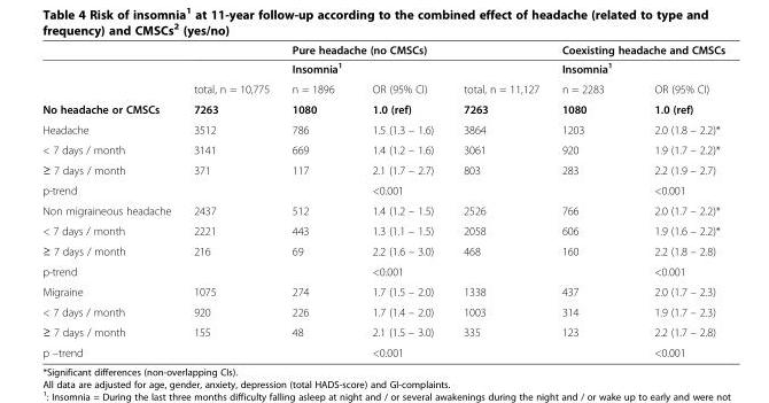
<table><thead><tr><td rowspan="2"></td><td rowspan="2"></td><td colspan="2">Pure headache (no CMSCs)</td><td rowspan="2"></td><td colspan="2">Coexisting headache and CMSCs</td></tr><tr><td>Insomnia<sup>1</sup></td><td></td><td>Insomnia<sup>1</sup></td><td></td></tr></thead><tbody><tr><td></td><td>total, n = 10,775</td><td>n = 1896</td><td>OR (95% CI)</td><td>total, n = 11,127</td><td>n = 2283</td><td>OR (95% CI)</td></tr><tr><td>No headache or CMSCs</td><td>7263</td><td>1080</td><td>1.0 (ref)</td><td>7263</td><td>1080</td><td>1.0 (ref)</td></tr><tr><td>Headache</td><td>3512</td><td>786</td><td>1.5 (1.3 – 1.6)</td><td>3864</td><td>1203</td><td>2.0 (1.8 – 2.2)*</td></tr><tr><td>&lt; 7 days / month</td><td>3141</td><td>669</td><td>1.4 (1.2 – 1.6)</td><td>3061</td><td>920</td><td>1.9 (1.7 – 2.2)*</td></tr><tr><td>≥ 7 days / month</td><td>371</td><td>117</td><td>2.1 (1.7 – 2.7)</td><td>803</td><td>283</td><td>2.2 (1.9 – 2.7)</td></tr><tr><td>p-trend</td><td></td><td></td><td>&lt;0.001</td><td></td><td></td><td>&lt;0.001</td></tr><tr><td>Non migraineous headache</td><td>2437</td><td>512</td><td>1.4 (1.2 – 1.5)</td><td>2526</td><td>766</td><td>2.0 (1.7 – 2.2)*</td></tr><tr><td>&lt; 7 days / month</td><td>2221</td><td>443</td><td>1.3 (1.1 – 1.5)</td><td>2058</td><td>606</td><td>1.9 (1.6 – 2.2)*</td></tr><tr><td>≥ 7 days / month</td><td>216</td><td>69</td><td>2.2 (1.6 – 3.0)</td><td>468</td><td>160</td><td>2.2 (1.8 – 2.8)</td></tr><tr><td>p-trend</td><td></td><td></td><td>&lt;0.001</td><td></td><td></td><td>&lt;0.001</td></tr><tr><td>Migraine</td><td>1075</td><td>274</td><td>1.7 (1.5 – 2.0)</td><td>1338</td><td>437</td><td>2.0 (1.7 – 2.3)</td></tr><tr><td>&lt; 7 days / month</td><td>920</td><td>226</td><td>1.7 (1.4 – 2.0)</td><td>1003</td><td>314</td><td>1.9 (1.7 – 2.3)</td></tr><tr><td>≥ 7 days / month</td><td>155</td><td>48</td><td>2.1 (1.5 – 3.0)</td><td>335</td><td>123</td><td>2.2 (1.7 – 2.8)</td></tr><tr><td>p –trend</td><td></td><td></td><td>&lt;0.001</td><td></td><td></td><td>&lt;0.001</td></tr></tbody></table>